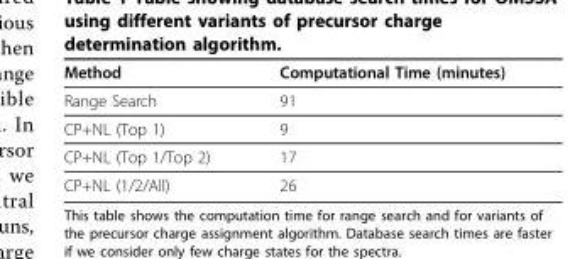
<table><thead><tr><td>Method</td><td>Computational Time (minutes)</td></tr></thead><tbody><tr><td>Range Search</td><td>91</td></tr><tr><td>CP+NL (Top 1)</td><td>9</td></tr><tr><td>CP+NL (Top 1/Top 2)</td><td>17</td></tr><tr><td>CP+NL (1/2/All)</td><td>26</td></tr></tbody></table>